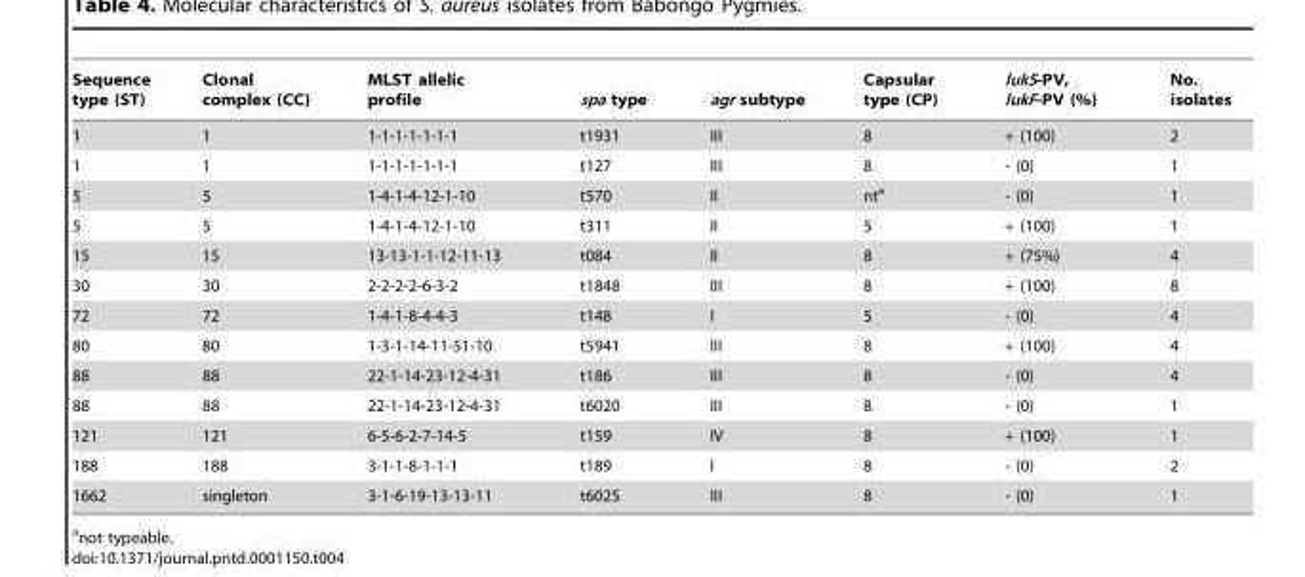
<table><thead><tr><td>Sequence type (ST)</td><td>Clonal complex (CC)</td><td>MLST allelic profile</td><td>spa type</td><td>agr subtype</td><td>Capsular type (CP)</td><td>lukS-PV, lukF-PV (%)</td><td>No. isolates</td></tr></thead><tbody><tr><td>1</td><td>1</td><td>1-1-1-1-1-1-1</td><td>t1931</td><td>III</td><td>8</td><td>+ (100)</td><td>2</td></tr><tr><td>1</td><td>1</td><td>1-1-1-1-1-1-1</td><td>t127</td><td>III</td><td>8</td><td>- (0)</td><td>1</td></tr><tr><td>5</td><td>5</td><td>1-4-1-4-12-1-10</td><td>t570</td><td>II</td><td>nt<sup>a</sup></td><td>- (0)</td><td>1</td></tr><tr><td>5</td><td>5</td><td>1-4-1-4-12-1-10</td><td>t311</td><td>II</td><td>5</td><td>+ (100)</td><td>1</td></tr><tr><td>15</td><td>15</td><td>13-13-1-1-12-11-13</td><td>t084</td><td>II</td><td>8</td><td>+ (75%)</td><td>4</td></tr><tr><td>30</td><td>30</td><td>2-2-2-2-6-3-2</td><td>t1848</td><td>III</td><td>8</td><td>+ (100)</td><td>8</td></tr><tr><td>72</td><td>72</td><td>1-4-1-8-4-4-3</td><td>t148</td><td>I</td><td>5</td><td>- (0)</td><td>4</td></tr><tr><td>80</td><td>80</td><td>1-3-1-14-11-51-10</td><td>t5941</td><td>III</td><td>8</td><td>+ (100)</td><td>4</td></tr><tr><td>88</td><td>88</td><td>22-1-14-23-12-4-31</td><td>t186</td><td>III</td><td>8</td><td>- (0)</td><td>4</td></tr><tr><td>88</td><td>88</td><td>22-1-14-23-12-4-31</td><td>t6020</td><td>III</td><td>8</td><td>- (0)</td><td>1</td></tr><tr><td>121</td><td>121</td><td>6-5-6-2-7-14-5</td><td>t159</td><td>IV</td><td>8</td><td>+ (100)</td><td>1</td></tr><tr><td>188</td><td>188</td><td>3-1-1-8-1-1-1</td><td>t189</td><td>I</td><td>8</td><td>- (0)</td><td>2</td></tr><tr><td>1662</td><td>singleton</td><td>3-1-6-19-13-13-11</td><td>t6025</td><td>III</td><td>8</td><td>- (0)</td><td>1</td></tr></tbody></table>